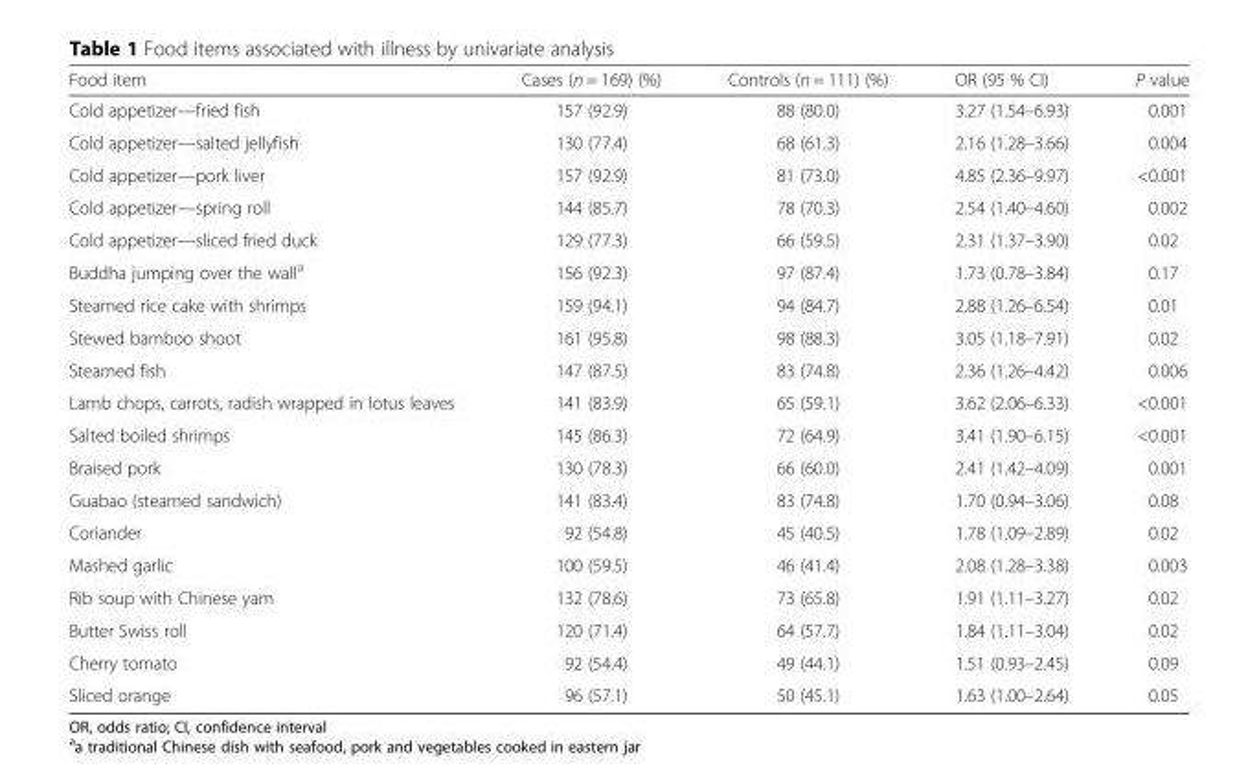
<table><thead><tr><td>Food item</td><td>Cases (n = 169) (%)</td><td>Controls (n = 111) (%)</td><td>OR (95 % CI)</td><td>P value</td></tr></thead><tbody><tr><td>Cold appetizer—fried fish</td><td>157 (92.9)</td><td>88 (80.0)</td><td>3.27 (1.54–6.93)</td><td>0.001</td></tr><tr><td>Cold appetizer—salted jellyfish</td><td>130 (77.4)</td><td>68 (61.3)</td><td>2.16 (1.28–3.66)</td><td>0.004</td></tr><tr><td>Cold appetizer—pork liver</td><td>157 (92.9)</td><td>81 (73.0)</td><td>4.85 (2.36–9.97)</td><td>&lt;0.001</td></tr><tr><td>Cold appetizer—spring roll</td><td>144 (85.7)</td><td>78 (70.3)</td><td>2.54 (1.40–4.60)</td><td>0.002</td></tr><tr><td>Cold appetizer—sliced fried duck</td><td>129 (77.3)</td><td>66 (59.5)</td><td>2.31 (1.37–3.90)</td><td>0.02</td></tr><tr><td>Buddha jumping over the wall<sup>a</sup></td><td>156 (92.3)</td><td>97 (87.4)</td><td>1.73 (0.78–3.84)</td><td>0.17</td></tr><tr><td>Steamed rice cake with shrimps</td><td>159 (94.1)</td><td>94 (84.7)</td><td>2.88 (1.26–6.54)</td><td>0.01</td></tr><tr><td>Stewed bamboo shoot</td><td>161 (95.8)</td><td>98 (88.3)</td><td>3.05 (1.18–7.91)</td><td>0.02</td></tr><tr><td>Steamed fish</td><td>147 (87.5)</td><td>83 (74.8)</td><td>2.36 (1.26–4.42)</td><td>0.006</td></tr><tr><td>Lamb chops, carrots, radish wrapped in lotus leaves</td><td>141 (83.9)</td><td>65 (59.1)</td><td>3.62 (2.06–6.33)</td><td>&lt;0.001</td></tr><tr><td>Salted boiled shrimps</td><td>145 (86.3)</td><td>72 (64.9)</td><td>3.41 (1.90–6.15)</td><td>&lt;0.001</td></tr><tr><td>Braised pork</td><td>130 (78.3)</td><td>66 (60.0)</td><td>2.41 (1.42–4.09)</td><td>0.001</td></tr><tr><td>Guabao (steamed sandwich)</td><td>141 (83.4)</td><td>83 (74.8)</td><td>1.70 (0.94–3.06)</td><td>0.08</td></tr><tr><td>Coriander</td><td>92 (54.8)</td><td>45 (40.5)</td><td>1.78 (1.09–2.89)</td><td>0.02</td></tr><tr><td>Mashed garlic</td><td>100 (59.5)</td><td>46 (41.4)</td><td>2.08 (1.28–3.38)</td><td>0.003</td></tr><tr><td>Rib soup with Chinese yam</td><td>132 (78.6)</td><td>73 (65.8)</td><td>1.91 (1.11–3.27)</td><td>0.02</td></tr><tr><td>Butter Swiss roll</td><td>120 (71.4)</td><td>64 (57.7)</td><td>1.84 (1.11–3.04)</td><td>0.02</td></tr><tr><td>Cherry tomato</td><td>92 (54.4)</td><td>49 (44.1)</td><td>1.51 (0.93–2.45)</td><td>0.09</td></tr><tr><td>Sliced orange</td><td>96 (57.1)</td><td>50 (45.1)</td><td>1.63 (1.00–2.64)</td><td>0.05</td></tr></tbody></table>